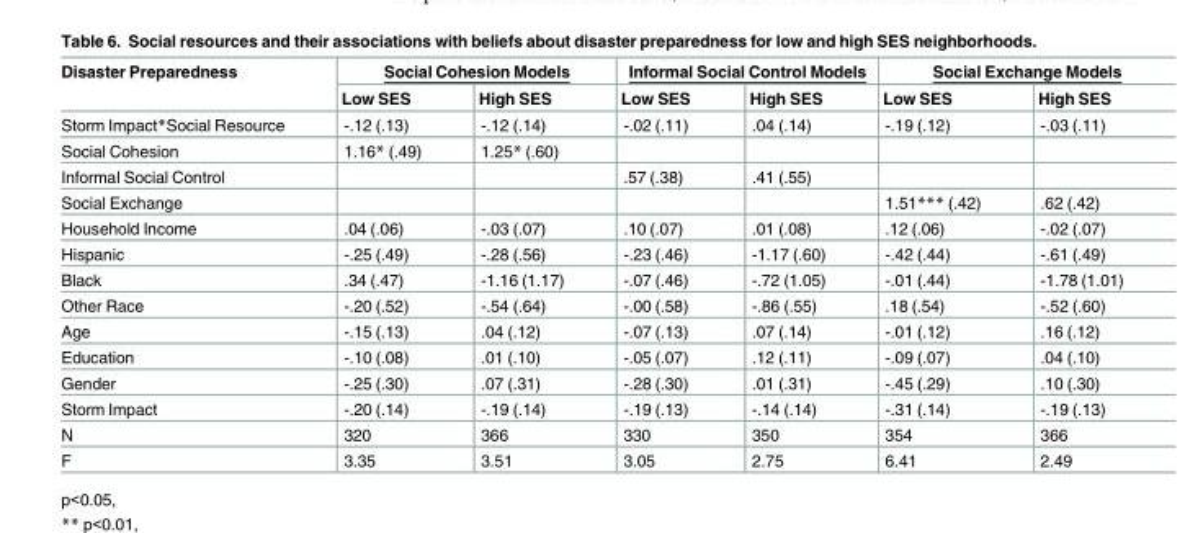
<table><thead><tr><td rowspan="2">Disaster Preparedness</td><td colspan="2">Social Cohesion Models</td><td colspan="2">Informal Social Control Models</td><td colspan="2">Social Exchange Models</td></tr><tr><td>Low SES</td><td>High SES</td><td>Low SES</td><td>High SES</td><td>Low SES</td><td>High SES</td></tr></thead><tbody><tr><td>Storm Impact*Social Resource</td><td>-.12 (.13)</td><td>-.12 (.14)</td><td>-.02 (.11)</td><td>.04 (.14)</td><td>-.19 (.12)</td><td>-.03 (.11)</td></tr><tr><td>Social Cohesion</td><td>1.16* (.49)</td><td>1.25* (.60)</td><td></td><td></td><td></td><td></td></tr><tr><td>Informal Social Control</td><td></td><td></td><td>.57 (.38)</td><td>.41 (.55)</td><td></td><td></td></tr><tr><td>Social Exchange</td><td></td><td></td><td></td><td></td><td>1.51*** (.42)</td><td>.62 (.42)</td></tr><tr><td>Household Income</td><td>.04 (.06)</td><td>-.03 (.07)</td><td>.10 (.07)</td><td>.01 (.08)</td><td>.12 (.06)</td><td>-.02 (.07)</td></tr><tr><td>Hispanic</td><td>-.25 (.49)</td><td>-.28 (.56)</td><td>-.23 (.46)</td><td>-1.17 (.60)</td><td>-.42 (.44)</td><td>-.61 (.49)</td></tr><tr><td>Black</td><td>.34 (.47)</td><td>-1.16 (1.17)</td><td>-.07 (.46)</td><td>-.72 (1.05)</td><td>-.01 (.44)</td><td>-1.78 (1.01)</td></tr><tr><td>Other Race</td><td>-.20 (.52)</td><td>-.54 (.64)</td><td>-.00 (.58)</td><td>-.86 (.55)</td><td>.18 (.54)</td><td>-.52 (.60)</td></tr><tr><td>Age</td><td>-.15 (.13)</td><td>.04 (.12)</td><td>-.07 (.13)</td><td>.07 (.14)</td><td>-.01 (.12)</td><td>.16 (.12)</td></tr><tr><td>Education</td><td>-.10 (.08)</td><td>.01 (.10)</td><td>-.05 (.07)</td><td>.12 (.11)</td><td>-.09 (.07)</td><td>.04 (.10)</td></tr><tr><td>Gender</td><td>-.25 (.30)</td><td>.07 (.31)</td><td>-.28 (.30)</td><td>.01 (.31)</td><td>-.45 (.29)</td><td>.10 (.30)</td></tr><tr><td>Storm Impact</td><td>-.20 (.14)</td><td>-.19 (.14)</td><td>-.19 (.13)</td><td>-.14 (.14)</td><td>-.31 (.14)</td><td>-.19 (.13)</td></tr><tr><td>N</td><td>320</td><td>366</td><td>330</td><td>350</td><td>354</td><td>366</td></tr><tr><td>F</td><td>3.35</td><td>3.51</td><td>3.05</td><td>2.75</td><td>6.41</td><td>2.49</td></tr></tbody></table>